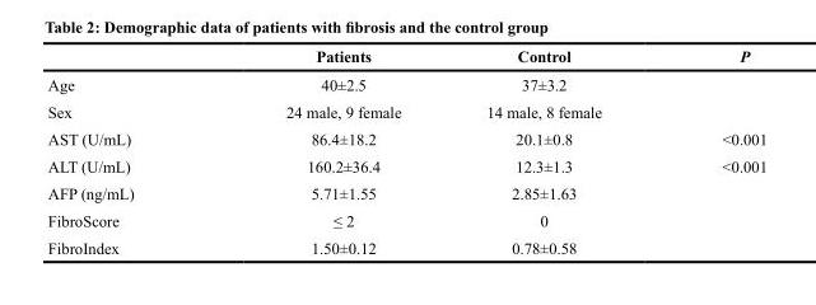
<table><thead><tr><td></td><td>Patients</td><td>Control</td><td>P</td></tr></thead><tbody><tr><td>Age</td><td>40±2.5</td><td>37±3.2</td><td></td></tr><tr><td>Sex</td><td>24 male, 9 female</td><td>14 male, 8 female</td><td></td></tr><tr><td>AST (U/mL)</td><td>86.4±18.2</td><td>20.1±0.8</td><td>&lt;0.001</td></tr><tr><td>ALT (U/mL)</td><td>160.2±36.4</td><td>12.3±1.3</td><td>&lt;0.001</td></tr><tr><td>AFP (ng/mL)</td><td>5.71±1.55</td><td>2.85±1.63</td><td></td></tr><tr><td>FibroScore</td><td>≤ 2</td><td>0</td><td></td></tr><tr><td>FibroIndex</td><td>1.50±0.12</td><td>0.78±0.58</td><td></td></tr></tbody></table>